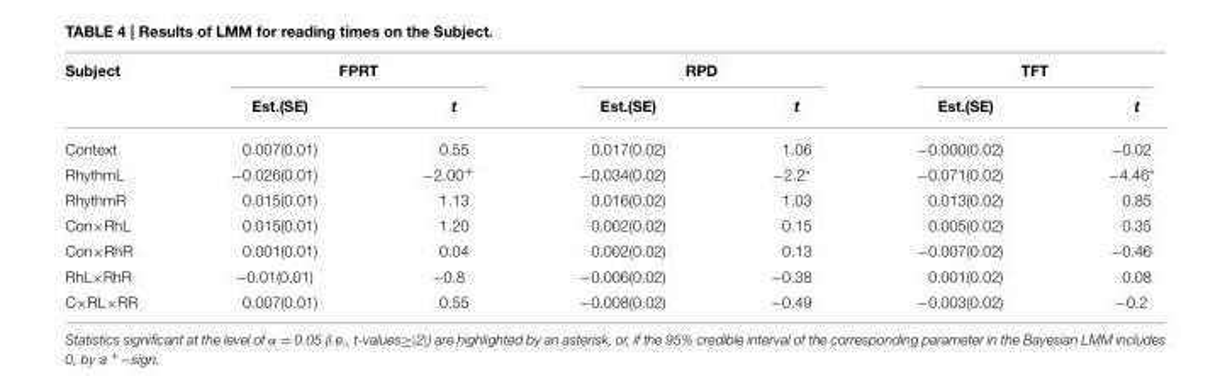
<table><thead><tr><td rowspan="2">Subject</td><td colspan="2">FPRT</td><td colspan="2">RPD</td><td colspan="2">TFT</td></tr><tr><td>Est.(SE)</td><td>t</td><td>Est.(SE)</td><td>t</td><td>Est.(SE)</td><td>t</td></tr></thead><tbody><tr><td>Context</td><td>0.007(0.01)</td><td>0.55</td><td>0.017(0.02)</td><td>1.06</td><td>−0.000(0.02)</td><td>−0.02</td></tr><tr><td>RhythmL</td><td>−0.026(0.01)</td><td>−2.00<sup>+</sup></td><td>−0.034(0.02)</td><td>−2.2*</td><td>−0.071(0.02)</td><td>−4.46*</td></tr><tr><td>RhythmR</td><td>0.015(0.01)</td><td>1.13</td><td>0.016(0.02)</td><td>1.03</td><td>0.013(0.02)</td><td>0.85</td></tr><tr><td>Con×RhL</td><td>0.015(0.01)</td><td>1.20</td><td>0.002(0.02)</td><td>0.15</td><td>0.005(0.02)</td><td>0.35</td></tr><tr><td>Con×RhR</td><td>0.001(0.01)</td><td>0.04</td><td>0.002(0.02)</td><td>0.13</td><td>−0.007(0.02)</td><td>−0.46</td></tr><tr><td>RhL×RhR</td><td>−0.01(0.01)</td><td>−0.8</td><td>−0.006(0.02)</td><td>−0.38</td><td>0.001(0.02)</td><td>0.08</td></tr><tr><td>C×RL×RR</td><td>0.007(0.01)</td><td>0.55</td><td>−0.008(0.02)</td><td>−0.49</td><td>−0.003(0.02)</td><td>−0.2</td></tr></tbody></table>